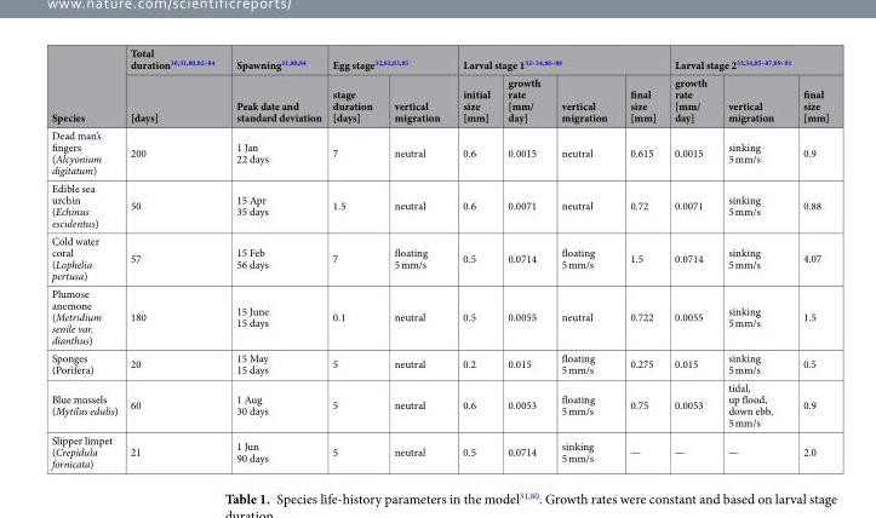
<table><thead><tr><td rowspan="2">Species</td><td rowspan="2">Total duration<sup>30,31,80,82–84</sup> [days]</td><td rowspan="2">Spawning<sup>31,80,84</sup> Peak date and standard deviation</td><td colspan="2">Egg stage<sup>32,82,83,85</sup></td><td colspan="4">Larval stage 1<sup>32–34,86–88</sup></td><td colspan="3">Larval stage 2<sup>33,34,85–87,89–91</sup></td></tr><tr><td>stage duration [days]</td><td>vertical migration</td><td>initial size [mm]</td><td>growth rate [mm/ day]</td><td>vertical migration</td><td>final size [mm]</td><td>growth rate [mm/ day]</td><td>vertical migration</td><td>final size [mm]</td></tr></thead><tbody><tr><td>Dead man’s fingers (Alcyonium digitatum)</td><td>200</td><td>1 Jan 22 days</td><td>7</td><td>neutral</td><td>0.6</td><td>0.0015</td><td>neutral</td><td>0.615</td><td>0.0015</td><td>sinking 5 mm/s</td><td>0.9</td></tr><tr><td>Edible sea urchin (Echinus esculentus)</td><td>50</td><td>15 Apr 35 days</td><td>1.5</td><td>neutral</td><td>0.6</td><td>0.0071</td><td>neutral</td><td>0.72</td><td>0.0071</td><td>sinking 5 mm/s</td><td>0.88</td></tr><tr><td>Cold water coral (Lophelia pertusa)</td><td>57</td><td>15 Feb 56 days</td><td>7</td><td>floating 5 mm/s</td><td>0.5</td><td>0.0714</td><td>floating 5 mm/s</td><td>1.5</td><td>0.0714</td><td>sinking 5 mm/s</td><td>4.07</td></tr><tr><td>Plumose anemone (Metridium senile var. dianthus)</td><td>180</td><td>15 June 15 days</td><td>0.1</td><td>neutral</td><td>0.5</td><td>0.0055</td><td>neutral</td><td>0.722</td><td>0.0055</td><td>sinking 5 mm/s</td><td>1.5</td></tr><tr><td>Sponges (Porifera)</td><td>20</td><td>15 May 15 days</td><td>5</td><td>neutral</td><td>0.2</td><td>0.015</td><td>floating 5 mm/s</td><td>0.275</td><td>0.015</td><td>sinking 5 mm/s</td><td>0.5</td></tr><tr><td>Blue mussels (Mytilus edulis)</td><td>60</td><td>1 Aug 30 days</td><td>5</td><td>neutral</td><td>0.6</td><td>0.0053</td><td>floating 5 mm/s</td><td>0.75</td><td>0.0053</td><td>tidal, up flood, down ebb, 5 mm/s</td><td>0.9</td></tr><tr><td>Slipper limpet (Crepidula fornicata)</td><td>21</td><td>1 Jun 90 days</td><td>5</td><td>neutral</td><td>0.5</td><td>0.0714</td><td>sinking 5 mm/s</td><td>—</td><td>—</td><td>—</td><td>2.0</td></tr></tbody></table>